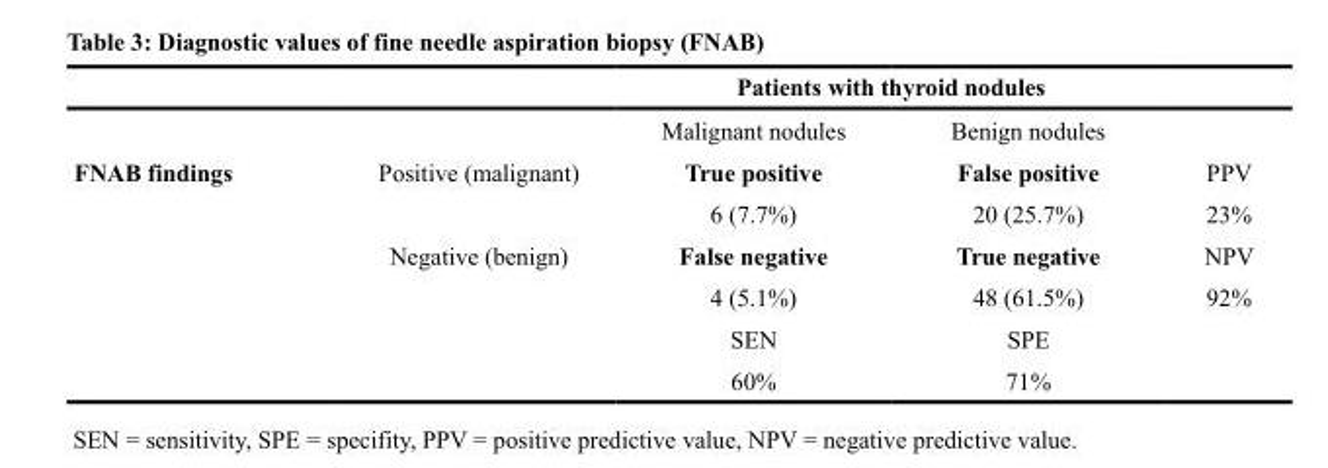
<table><thead><tr><td rowspan="2"></td><td rowspan="2"></td><td colspan="2">Patients with thyroid nodules</td><td rowspan="2"></td></tr><tr><td>Malignant nodules</td><td>Benign nodules</td></tr></thead><tbody><tr><td rowspan="6">FNAB findings</td><td>Positive (malignant)</td><td>True positive</td><td>False positive</td><td>PPV</td></tr><tr><td></td><td>6 (7.7%)</td><td>20 (25.7%)</td><td>23%</td></tr><tr><td>Negative (benign)</td><td>False negative</td><td>True negative</td><td>NPV</td></tr><tr><td></td><td>4 (5.1%)</td><td>48 (61.5%)</td><td>92%</td></tr><tr><td></td><td>SEN</td><td>SPE</td><td></td></tr><tr><td></td><td>60%</td><td>71%</td><td></td></tr></tbody></table>